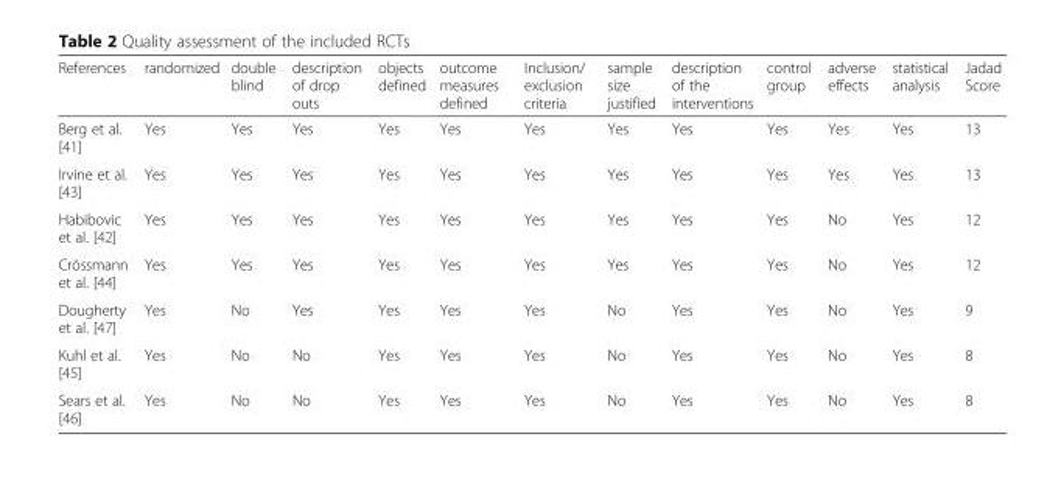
<table><thead><tr><td>References</td><td>randomized</td><td>double blind</td><td>description of drop outs</td><td>objects defined</td><td>outcome measures defined</td><td>Inclusion/ exclusion criteria</td><td>sample size justified</td><td>description of the interventions</td><td>control group</td><td>adverse effects</td><td>statistical analysis</td><td>Jadad Score</td></tr></thead><tbody><tr><td>Berg et al. [41]</td><td>Yes</td><td>Yes</td><td>Yes</td><td>Yes</td><td>Yes</td><td>Yes</td><td>Yes</td><td>Yes</td><td>Yes</td><td>Yes</td><td>Yes</td><td>13</td></tr><tr><td>Irvine et al. [43]</td><td>Yes</td><td>Yes</td><td>Yes</td><td>Yes</td><td>Yes</td><td>Yes</td><td>Yes</td><td>Yes</td><td>Yes</td><td>Yes</td><td>Yes</td><td>13</td></tr><tr><td>Habibovic et al. [42]</td><td>Yes</td><td>Yes</td><td>Yes</td><td>Yes</td><td>Yes</td><td>Yes</td><td>Yes</td><td>Yes</td><td>Yes</td><td>No</td><td>Yes</td><td>12</td></tr><tr><td>Crössmann et al. [44]</td><td>Yes</td><td>Yes</td><td>Yes</td><td>Yes</td><td>Yes</td><td>Yes</td><td>Yes</td><td>Yes</td><td>Yes</td><td>No</td><td>Yes</td><td>12</td></tr><tr><td>Dougherty et al. [47]</td><td>Yes</td><td>No</td><td>Yes</td><td>Yes</td><td>Yes</td><td>Yes</td><td>No</td><td>Yes</td><td>Yes</td><td>No</td><td>Yes</td><td>9</td></tr><tr><td>Kuhl et al. [45]</td><td>Yes</td><td>No</td><td>No</td><td>Yes</td><td>Yes</td><td>Yes</td><td>No</td><td>Yes</td><td>Yes</td><td>No</td><td>Yes</td><td>8</td></tr><tr><td>Sears et al. [46]</td><td>Yes</td><td>No</td><td>No</td><td>Yes</td><td>Yes</td><td>Yes</td><td>No</td><td>Yes</td><td>Yes</td><td>No</td><td>Yes</td><td>8</td></tr></tbody></table>